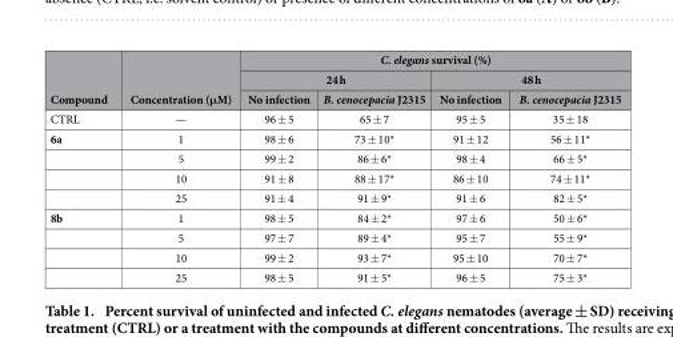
<table><thead><tr><td rowspan="3">Compound</td><td rowspan="3">Concentration (μM)</td><td colspan="4">C. elegans survival (%)</td></tr><tr><td colspan="2">24 h</td><td colspan="2">48 h</td></tr><tr><td>No infection</td><td>B. cenocepacia J2315</td><td>No infection</td><td>B. cenocepacia J2315</td></tr></thead><tbody><tr><td>CTRL</td><td>—</td><td>96 ± 5</td><td>65 ± 7</td><td>95 ± 5</td><td>35 ± 18</td></tr><tr><td rowspan="4">6a</td><td>1</td><td>98 ± 6</td><td>73 ± 10*</td><td>91 ± 12</td><td>56 ± 11*</td></tr><tr><td>5</td><td>99 ± 2</td><td>86 ± 6*</td><td>98 ± 4</td><td>66 ± 5*</td></tr><tr><td>10</td><td>91 ± 8</td><td>88 ± 17*</td><td>86 ± 10</td><td>74 ± 11*</td></tr><tr><td>25</td><td>91 ± 4</td><td>91 ± 9*</td><td>91 ± 6</td><td>82 ± 5*</td></tr><tr><td rowspan="4">8b</td><td>1</td><td>98 ± 5</td><td>84 ± 2*</td><td>97 ± 6</td><td>50 ± 6*</td></tr><tr><td>5</td><td>97 ± 7</td><td>89 ± 4*</td><td>95 ± 7</td><td>55 ± 9*</td></tr><tr><td>10</td><td>99 ± 2</td><td>93 ± 7*</td><td>95 ± 10</td><td>70 ± 7*</td></tr><tr><td>25</td><td>98 ± 5</td><td>91 ± 5*</td><td>96 ± 5</td><td>75 ± 3*</td></tr></tbody></table>